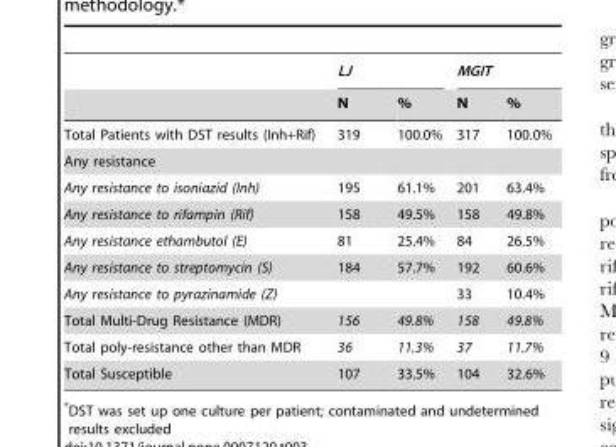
<table><thead><tr><td rowspan="2"></td><td colspan="2">LJ</td><td colspan="2">MGIT</td></tr><tr><td>N</td><td>%</td><td>N</td><td>%</td></tr></thead><tbody><tr><td>Total Patients with DST results (Inh+Rif)</td><td>319</td><td>100.0%</td><td>317</td><td>100.0%</td></tr><tr><td colspan="5">Any resistance</td></tr><tr><td>Any resistance to isoniazid (Inh)</td><td>195</td><td>61.1%</td><td>201</td><td>63.4%</td></tr><tr><td>Any resistance to rifampin (Rif)</td><td>158</td><td>49.5%</td><td>158</td><td>49.8%</td></tr><tr><td>Any resistance ethambutol (E)</td><td>81</td><td>25.4%</td><td>84</td><td>26.5%</td></tr><tr><td>Any resistance to streptomycin (S)</td><td>184</td><td>57.7%</td><td>192</td><td>60.6%</td></tr><tr><td>Any resistance to pyrazinamide (Z)</td><td></td><td></td><td>33</td><td>10.4%</td></tr><tr><td>Total Multi-Drug Resistance (MDR)</td><td>156</td><td>49.8%</td><td>158</td><td>49.8%</td></tr><tr><td>Total poly-resistance other than MDR</td><td>36</td><td>11.3%</td><td>37</td><td>11.7%</td></tr><tr><td>Total Susceptible</td><td>107</td><td>33.5%</td><td>104</td><td>32.6%</td></tr></tbody></table>